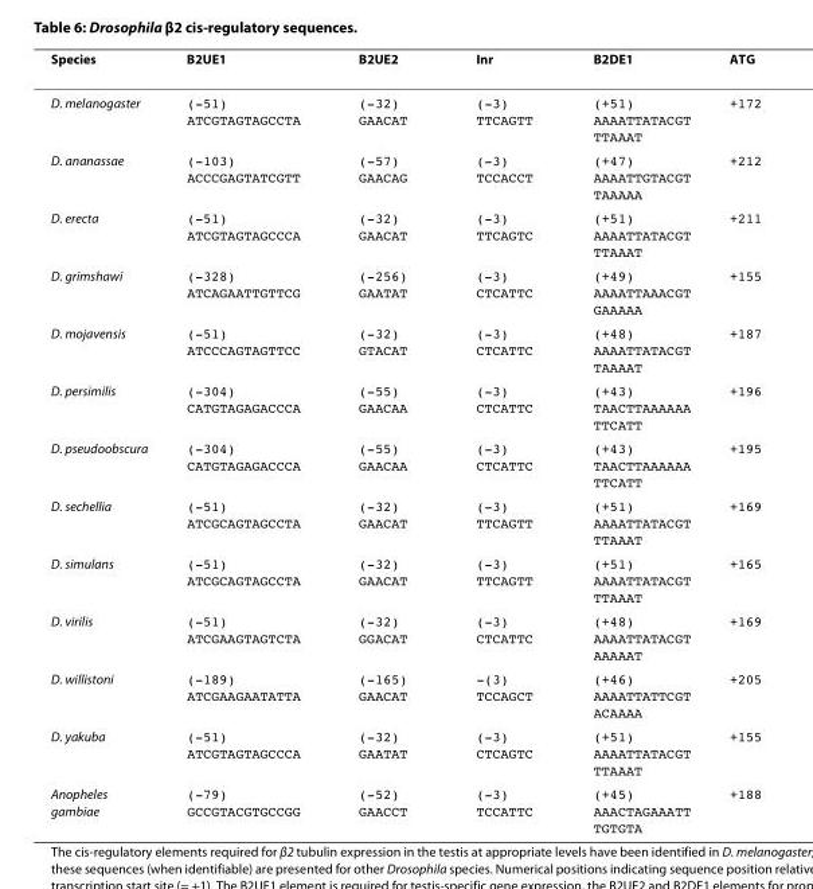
<table><thead><tr><td>Species</td><td>B2UE1</td><td>B2UE2</td><td>Inr</td><td>B2DE1</td><td>ATG</td></tr></thead><tbody><tr><td>D. melanogaster</td><td>(-51) ATCGTAGTAGCCTA</td><td>(-32) GAACAT</td><td>(-3) TTCAGTT</td><td>(+51) AAAATTATACGT TTAAAT</td><td>+172</td></tr><tr><td>D. ananassae</td><td>(-103) ACCCGAGTATCGTT</td><td>(-57) GAACAG</td><td>(-3) TCCACCT</td><td>(+47) AAAATTGTACGT TAAAAA</td><td>+212</td></tr><tr><td>D. erecta</td><td>(-51) ATCGTAGTAGCCCA</td><td>(-32) GAACAT</td><td>(-3) TTCAGTC</td><td>(+51) AAAATTATACGT TTAAAT</td><td>+211</td></tr><tr><td>D. grimshawi</td><td>(-328) ATCAGAATTGTTCG</td><td>(-256) GAATAT</td><td>(-3) CTCATTC</td><td>(+49) AAAATTAAACGT GAAAAA</td><td>+155</td></tr><tr><td>D. mojavensis</td><td>(-51) ATCCCAGTAGTTCC</td><td>(-32) GTACAT</td><td>(-3) CTCATTC</td><td>(+48) AAAATTATACGT TAAAAT</td><td>+187</td></tr><tr><td>D. persimilis</td><td>(-304) CATGTAGAGACCCA</td><td>(-55) GAACAA</td><td>(-3) CTCATTC</td><td>(+43) TAACTTAAAAAA TTCATT</td><td>+196</td></tr><tr><td>D. pseudoobscura</td><td>(-304) CATGTAGAGACCCA</td><td>(-55) GAACAA</td><td>(-3) CTCATTC</td><td>(+43) TAACTTAAAAAA TTCATT</td><td>+195</td></tr><tr><td>D. sechellia</td><td>(-51) ATCGCAGTAGCCTA</td><td>(-32) GAACAT</td><td>(-3) TTCAGTT</td><td>(+51) AAAATTATACGT TTAAAT</td><td>+169</td></tr><tr><td>D. simulans</td><td>(-51) ATCGCAGTAGCCTA</td><td>(-32) GAACAT</td><td>(-3) TTCAGTT</td><td>(+51) AAAATTATACGT TTAAAT</td><td>+165</td></tr><tr><td>D. virilis</td><td>(-51) ATCGAAGTAGTCTA</td><td>(-32) GGACAT</td><td>(-3) CTCATTC</td><td>(+48) AAAATTATACGT AAAAAT</td><td>+169</td></tr><tr><td>D. willistoni</td><td>(-189) ATCGAAGAATATTA</td><td>(-165) GAACAT</td><td>-(3) TCCAGCT</td><td>(+46) AAAATTATTCGT ACAAAA</td><td>+205</td></tr><tr><td>D. yakuba</td><td>(-51) ATCGTAGTAGCCCA</td><td>(-32) GAATAT</td><td>(-3) CTCAGTC</td><td>(+51) AAAATTATACGT TTAAAT</td><td>+155</td></tr><tr><td>Anopheles gambiae</td><td>(-79) GCCGTACGTGCCGG</td><td>(-52) GAACCT</td><td>(-3) TCCATTC</td><td>(+45) AAACTAGAAATT TGTGTA</td><td>+188</td></tr></tbody></table>